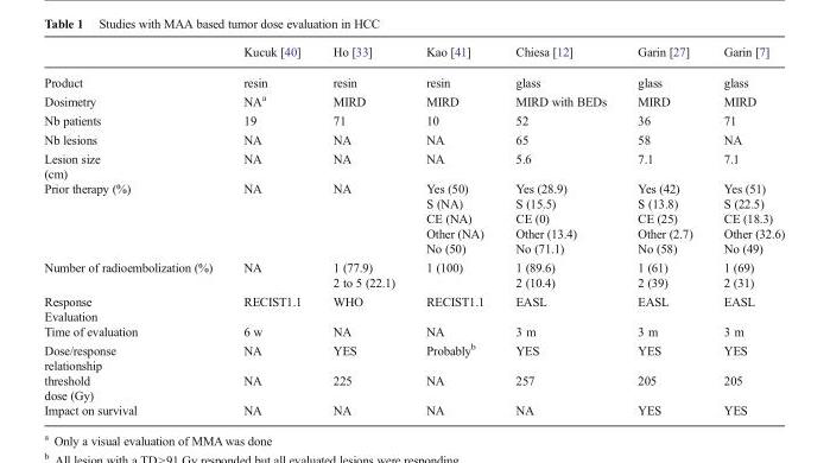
<table><thead><tr><td></td><td>Kucuk [40]</td><td>Ho [33]</td><td>Kao [41]</td><td>Chiesa [12]</td><td>Garin [27]</td><td>Garin [7]</td></tr></thead><tbody><tr><td>Product</td><td>resin</td><td>resin</td><td>resin</td><td>glass</td><td>glass</td><td>glass</td></tr><tr><td>Dosimetry</td><td>NA<sup>a</sup></td><td>MIRD</td><td>MIRD</td><td>MIRD with BEDs</td><td>MIRD</td><td>MIRD</td></tr><tr><td>Nb patients</td><td>19</td><td>71</td><td>10</td><td>52</td><td>36</td><td>71</td></tr><tr><td>Nb lesions</td><td>NA</td><td>NA</td><td>NA</td><td>65</td><td>58</td><td>NA</td></tr><tr><td>Lesion size (cm)</td><td>NA</td><td>NA</td><td>NA</td><td>5.6</td><td>7.1</td><td>7.1</td></tr><tr><td>Prior therapy (%)</td><td>NA</td><td>NA</td><td>Yes (50) S (NA) CE (NA) Other (NA) No (50)</td><td>Yes (28.9) S (15.5) CE (0) Other (13.4) No (71.1)</td><td>Yes (42) S (13.8) CE (25) Other (2.7) No (58)</td><td>Yes (51) S (22.5) CE (18.3) Other (32.6) No (49)</td></tr><tr><td>Number of radioembolization (%)</td><td>NA</td><td>1 (77.9) 2 to 5 (22.1)</td><td>1 (100)</td><td>1 (89.6) 2 (10.4)</td><td>1 (61) 2 (39)</td><td>1 (69) 2 (31)</td></tr><tr><td>Response Evaluation</td><td>RECIST1.1</td><td>WHO</td><td>RECIST1.1</td><td>EASL</td><td>EASL</td><td>EASL</td></tr><tr><td>Time of evaluation</td><td>6 w</td><td>NA</td><td>NA</td><td>3 m</td><td>3 m</td><td>3 m</td></tr><tr><td>Dose/response relationship</td><td>NA</td><td>YES</td><td>Probably<sup>b</sup></td><td>YES</td><td>YES</td><td>YES</td></tr><tr><td>threshold dose (Gy)</td><td>NA</td><td>225</td><td>NA</td><td>257</td><td>205</td><td>205</td></tr><tr><td>Impact on survival</td><td>NA</td><td>NA</td><td>NA</td><td>NA</td><td>YES</td><td>YES</td></tr></tbody></table>